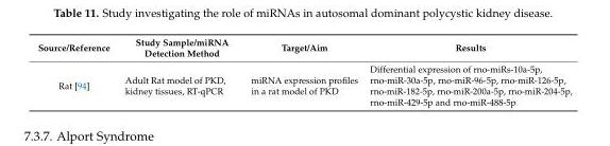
<table><thead><tr><td>Source/Reference</td><td>Study Sample/miRNA Detection Method</td><td>Target/Aim</td><td>Results</td></tr></thead><tbody><tr><td>Rat [94]</td><td>Adult Rat model of PKD, kidney tissues, RT-qPCR</td><td>miRNA expression profiles in a rat model of PKD</td><td>Differential expression of rno-miRs-10a-5p, rno-miR-30a-5p, rno-miR-96-5p, rno-miR-126-5p, rno-miR-182-5p, rno-miR-200a-5p, rno-miR-204-5p, rno-miR-429-5p and rno-miR-488-5p</td></tr></tbody></table>